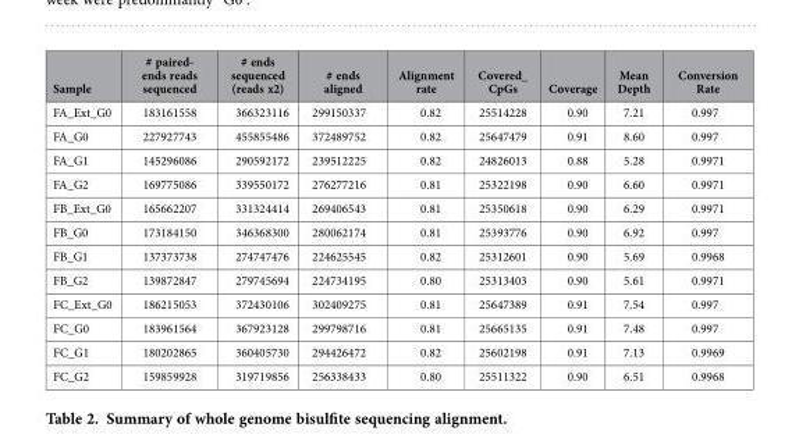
<table><thead><tr><td>Sample</td><td># paired- ends reads sequenced</td><td># ends sequenced (reads x2)</td><td># ends aligned</td><td>Alignment rate</td><td>Covered_ CpGs</td><td>Coverage</td><td>Mean Depth</td><td>Conversion Rate</td></tr></thead><tbody><tr><td>FA_Ext_G0</td><td>183161558</td><td>366323116</td><td>299150337</td><td>0.82</td><td>25514228</td><td>0.90</td><td>7.21</td><td>0.997</td></tr><tr><td>FA_G0</td><td>227927743</td><td>455855486</td><td>372489752</td><td>0.82</td><td>25647479</td><td>0.91</td><td>8.60</td><td>0.997</td></tr><tr><td>FA_G1</td><td>145296086</td><td>290592172</td><td>239512225</td><td>0.82</td><td>24826013</td><td>0.88</td><td>5.28</td><td>0.9971</td></tr><tr><td>FA_G2</td><td>169775086</td><td>339550172</td><td>276277216</td><td>0.81</td><td>25322198</td><td>0.90</td><td>6.60</td><td>0.9971</td></tr><tr><td>FB_Ext_G0</td><td>165662207</td><td>331324414</td><td>269406543</td><td>0.81</td><td>25350618</td><td>0.90</td><td>6.29</td><td>0.9971</td></tr><tr><td>FB_G0</td><td>173184150</td><td>346368300</td><td>280062174</td><td>0.81</td><td>25393776</td><td>0.90</td><td>6.92</td><td>0.997</td></tr><tr><td>FB_G1</td><td>137373738</td><td>274747476</td><td>224625545</td><td>0.82</td><td>25312601</td><td>0.90</td><td>5.69</td><td>0.9968</td></tr><tr><td>FB_G2</td><td>139872847</td><td>279745694</td><td>224734195</td><td>0.80</td><td>25313403</td><td>0.90</td><td>5.61</td><td>0.9971</td></tr><tr><td>FC_Ext_G0</td><td>186215053</td><td>372430106</td><td>302409275</td><td>0.81</td><td>25647389</td><td>0.91</td><td>7.54</td><td>0.997</td></tr><tr><td>FC_G0</td><td>183961564</td><td>367923128</td><td>299798716</td><td>0.81</td><td>25665135</td><td>0.91</td><td>7.48</td><td>0.997</td></tr><tr><td>FC_G1</td><td>180202865</td><td>360405730</td><td>294426472</td><td>0.82</td><td>25602198</td><td>0.91</td><td>7.13</td><td>0.9969</td></tr><tr><td>FC_G2</td><td>159859928</td><td>319719856</td><td>256338433</td><td>0.80</td><td>25511322</td><td>0.90</td><td>6.51</td><td>0.9968</td></tr></tbody></table>